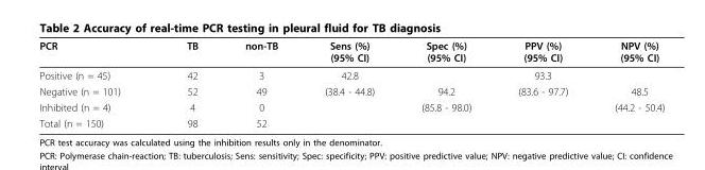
<table><thead><tr><td>PCR</td><td>TB</td><td>non-TB</td><td>Sens (%) (95% CI)</td><td>Spec (%) (95% CI)</td><td>PPV (%) (95% CI)</td><td>NPV (%) (95% CI)</td></tr></thead><tbody><tr><td>Positive (n = 45)</td><td>42</td><td>3</td><td>42.8</td><td></td><td>93.3</td><td></td></tr><tr><td>Negative (n = 101)</td><td>52</td><td>49</td><td>(38.4 - 44.8)</td><td>94.2</td><td>(83.6 - 97.7)</td><td>48.5</td></tr><tr><td>Inhibited (n = 4)</td><td>4</td><td>0</td><td></td><td>(85.8 - 98.0)</td><td></td><td>(44.2 - 50.4)</td></tr><tr><td>Total (n = 150)</td><td>98</td><td>52</td><td></td><td></td><td></td><td></td></tr></tbody></table>